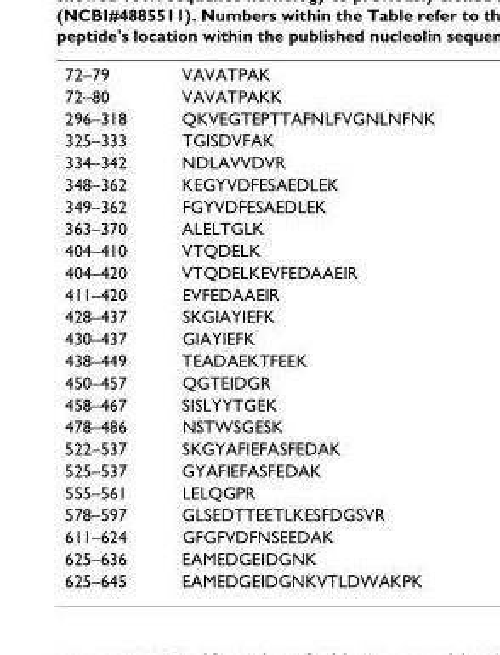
<table><tbody><tr><td>72–79</td><td>VAVATPAK</td></tr><tr><td>72–80</td><td>VAVATPAKK</td></tr><tr><td>296–318</td><td>QKVEGTEPTTAFNLFVGNLNFNK</td></tr><tr><td>325–333</td><td>TGISDVFAK</td></tr><tr><td>334–342</td><td>NDLAVVDVR</td></tr><tr><td>348–362</td><td>KEGYVDFESAEDLEK</td></tr><tr><td>349–362</td><td>FGYVDFESAEDLEK</td></tr><tr><td>363–370</td><td>ALELTGLK</td></tr><tr><td>404–410</td><td>VTQDELK</td></tr><tr><td>404–420</td><td>VTQDELKEVFEDAAEIR</td></tr><tr><td>411–420</td><td>EVFEDAAEIR</td></tr><tr><td>428–437</td><td>SKGIAYIEFK</td></tr><tr><td>430–437</td><td>GIAYIEFK</td></tr><tr><td>438–449</td><td>TEADAEKTFEEK</td></tr><tr><td>450–457</td><td>QGTEIDGR</td></tr><tr><td>458–467</td><td>SISLYYTGEK</td></tr><tr><td>478–486</td><td>NSTWSGESK</td></tr><tr><td>522–537</td><td>SKGYAFIEFASFEDAK</td></tr><tr><td>525–537</td><td>GYAFIEFASFEDAK</td></tr><tr><td>555–561</td><td>LELQGPR</td></tr><tr><td>578–597</td><td>GLSEDTTEETLKESFDGSVR</td></tr><tr><td>611–624</td><td>GFGFVDFNSEEDAK</td></tr><tr><td>625–636</td><td>EAMEDGEIDGNK</td></tr><tr><td>625–645</td><td>EAMEDGEIDGNKVTLDWAKPK</td></tr></tbody></table>